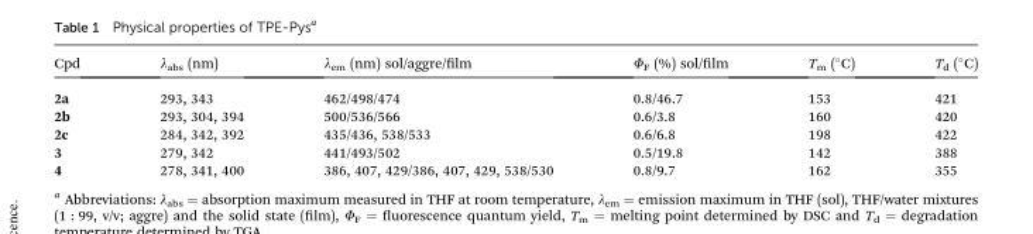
<table><thead><tr><td>Cpd</td><td>λ<sub>abs</sub> (nm)</td><td>lem (nm) sol/aggre/lm</td><td>FF (%) sol/lm</td><td>T<sub>m</sub> (°C)</td><td>T<sub>d</sub> (°C)</td></tr></thead><tbody><tr><td>2a</td><td>293, 343</td><td>462/498/474</td><td>0.8/46.7</td><td>153</td><td>421</td></tr><tr><td>2b</td><td>293, 304, 394</td><td>500/536/566</td><td>0.6/3.8</td><td>160</td><td>420</td></tr><tr><td>2c</td><td>284, 342, 392</td><td>435/436, 538/533</td><td>0.6/6.8</td><td>198</td><td>422</td></tr><tr><td>3</td><td>279, 342</td><td>441/493/502</td><td>0.5/19.8</td><td>142</td><td>388</td></tr><tr><td>4</td><td>278, 341, 400</td><td>386, 407, 429/386, 407, 429, 538/530</td><td>0.8/9.7</td><td>162</td><td>355</td></tr></tbody></table>